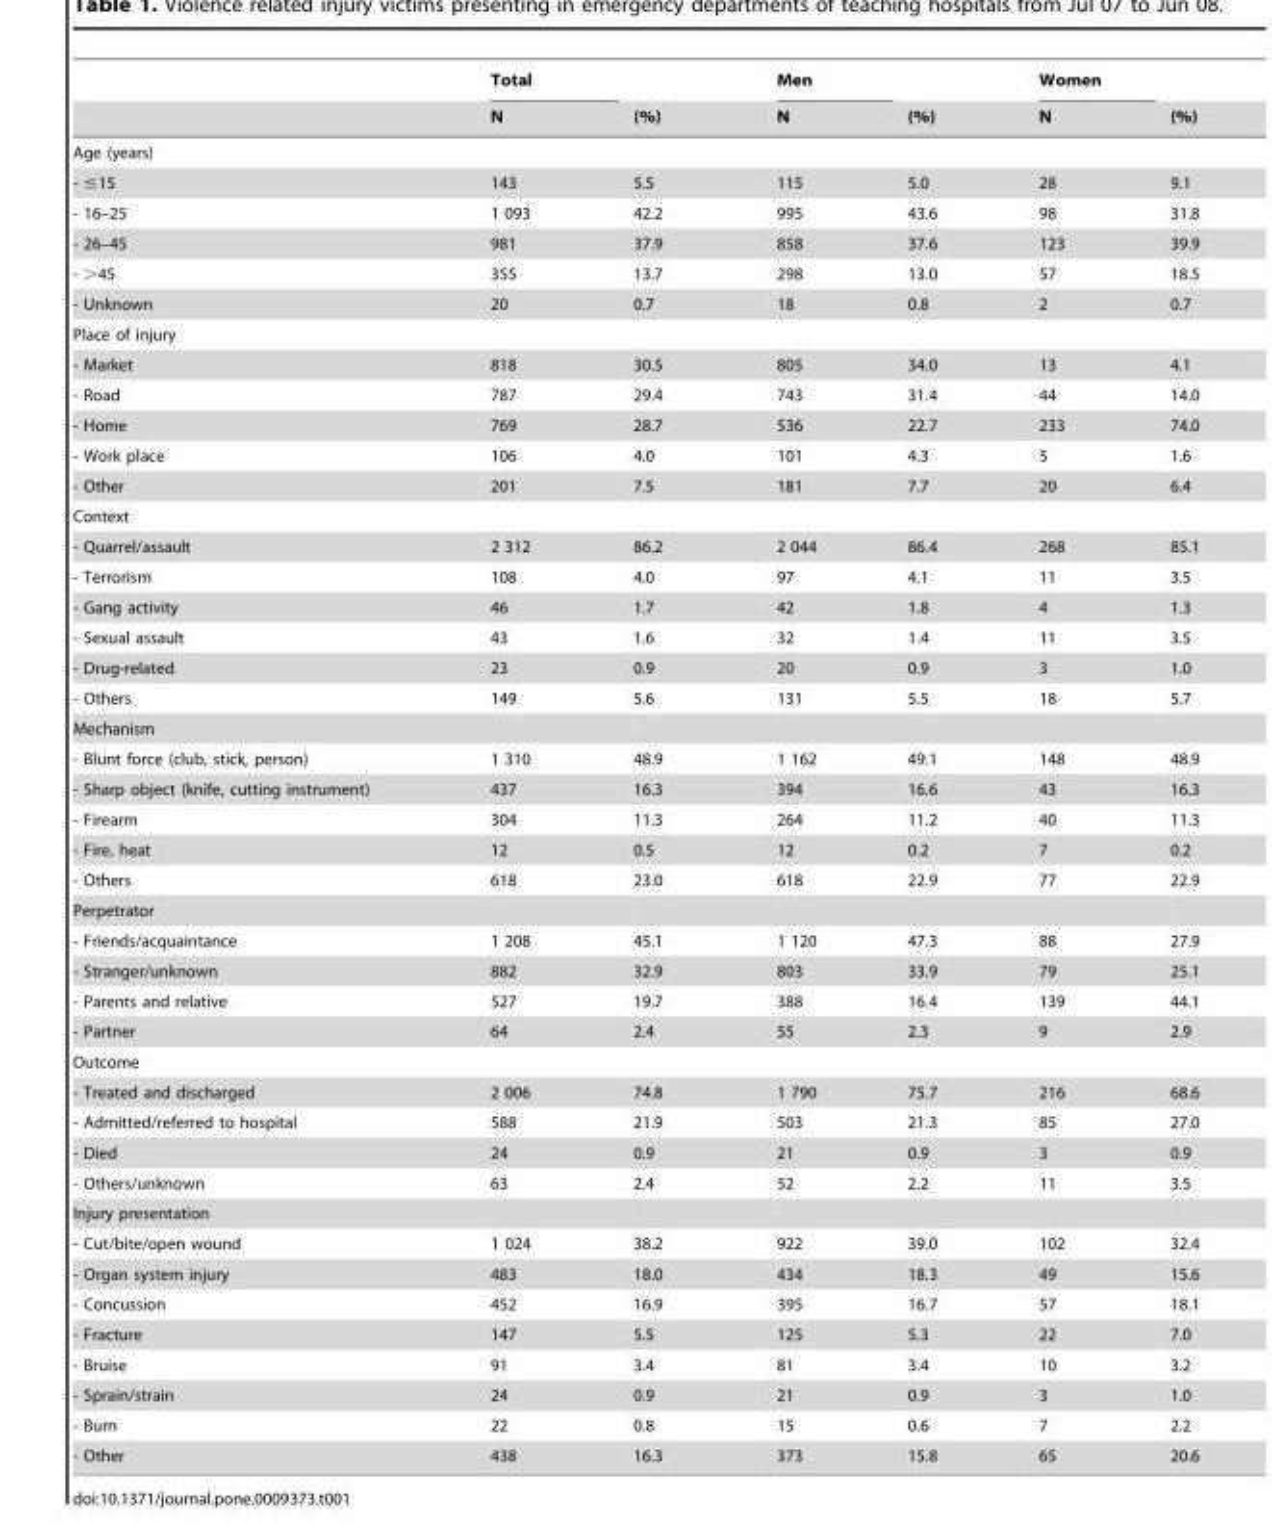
<table><thead><tr><td rowspan="2"></td><td rowspan="2">Total N</td><td rowspan="2">(%)</td><td rowspan="2">Men N</td><td rowspan="2">(%)</td><td rowspan="2">Women N</td><td rowspan="2">(%)</td></tr><tr></tr></thead><tbody><tr><td colspan="7">Age (years)</td></tr><tr><td>- ≤15</td><td>143</td><td>5.5</td><td>115</td><td>5.0</td><td>28</td><td>9.1</td></tr><tr><td>- 16–25</td><td>1 093</td><td>42.2</td><td>995</td><td>43.6</td><td>98</td><td>31.8</td></tr><tr><td>- 26–45</td><td>981</td><td>37.9</td><td>858</td><td>37.6</td><td>123</td><td>39.9</td></tr><tr><td>- &gt;45</td><td>355</td><td>13.7</td><td>298</td><td>13.0</td><td>57</td><td>18.5</td></tr><tr><td>- Unknown</td><td>20</td><td>0.7</td><td>18</td><td>0.8</td><td>2</td><td>0.7</td></tr><tr><td colspan="7">Place of injury</td></tr><tr><td>- Market</td><td>818</td><td>30.5</td><td>805</td><td>34.0</td><td>13</td><td>4.1</td></tr><tr><td>- Road</td><td>787</td><td>29.4</td><td>743</td><td>31.4</td><td>44</td><td>14.0</td></tr><tr><td>- Home</td><td>769</td><td>28.7</td><td>536</td><td>22.7</td><td>233</td><td>74.0</td></tr><tr><td>- Work place</td><td>106</td><td>4.0</td><td>101</td><td>4.3</td><td>5</td><td>1.6</td></tr><tr><td>- Other</td><td>201</td><td>7.5</td><td>181</td><td>7.7</td><td>20</td><td>6.4</td></tr><tr><td colspan="7">Context</td></tr><tr><td>- Quarrel/assault</td><td>2 312</td><td>86.2</td><td>2 044</td><td>86.4</td><td>268</td><td>85.1</td></tr><tr><td>- Terrorism</td><td>108</td><td>4.0</td><td>97</td><td>4.1</td><td>11</td><td>3.5</td></tr><tr><td>- Gang activity</td><td>46</td><td>1.7</td><td>42</td><td>1.8</td><td>4</td><td>1.3</td></tr><tr><td>- Sexual assault</td><td>43</td><td>1.6</td><td>32</td><td>1.4</td><td>11</td><td>3.5</td></tr><tr><td>- Drug-related</td><td>23</td><td>0.9</td><td>20</td><td>0.9</td><td>3</td><td>1.0</td></tr><tr><td>- Others</td><td>149</td><td>5.6</td><td>131</td><td>5.5</td><td>18</td><td>5.7</td></tr><tr><td colspan="7">Mechanism</td></tr><tr><td>- Blunt force (club, stick, person)</td><td>1 310</td><td>48.9</td><td>1 162</td><td>49.1</td><td>148</td><td>48.9</td></tr><tr><td>- Sharp object (knife, cutting instrument)</td><td>437</td><td>16.3</td><td>394</td><td>16.6</td><td>43</td><td>16.3</td></tr><tr><td>- Firearm</td><td>304</td><td>11.3</td><td>264</td><td>11.2</td><td>40</td><td>11.3</td></tr><tr><td>- Fire, heat</td><td>12</td><td>0.5</td><td>12</td><td>0.2</td><td>7</td><td>0.2</td></tr><tr><td>- Others</td><td>618</td><td>23.0</td><td>618</td><td>22.9</td><td>77</td><td>22.9</td></tr><tr><td colspan="7">Perpetrator</td></tr><tr><td>- Friends/acquaintance</td><td>1 208</td><td>45.1</td><td>1 120</td><td>47.3</td><td>88</td><td>27.9</td></tr><tr><td>- Stranger/unknown</td><td>882</td><td>32.9</td><td>803</td><td>33.9</td><td>79</td><td>25.1</td></tr><tr><td>- Parents and relative</td><td>527</td><td>19.7</td><td>388</td><td>16.4</td><td>139</td><td>44.1</td></tr><tr><td>- Partner</td><td>64</td><td>2.4</td><td>55</td><td>2.3</td><td>9</td><td>2.9</td></tr><tr><td colspan="7">Outcome</td></tr><tr><td>- Treated and discharged</td><td>2 006</td><td>74.8</td><td>1 790</td><td>75.7</td><td>216</td><td>68.6</td></tr><tr><td>- Admitted/referred to hospital</td><td>588</td><td>21.9</td><td>503</td><td>21.3</td><td>85</td><td>27.0</td></tr><tr><td>- Died</td><td>24</td><td>0.9</td><td>21</td><td>0.9</td><td>3</td><td>0.9</td></tr><tr><td>- Others/unknown</td><td>63</td><td>2.4</td><td>52</td><td>2.2</td><td>11</td><td>3.5</td></tr><tr><td colspan="7">Injury presentation</td></tr><tr><td>- Cut/bite/open wound</td><td>1 024</td><td>38.2</td><td>922</td><td>39.0</td><td>102</td><td>32.4</td></tr><tr><td>- Organ system injury</td><td>483</td><td>18.0</td><td>434</td><td>18.3</td><td>49</td><td>15.6</td></tr><tr><td>- Concussion</td><td>452</td><td>16.9</td><td>395</td><td>16.7</td><td>57</td><td>18.1</td></tr><tr><td>- Fracture</td><td>147</td><td>5.5</td><td>125</td><td>5.3</td><td>22</td><td>7.0</td></tr><tr><td>- Bruise</td><td>91</td><td>3.4</td><td>81</td><td>3.4</td><td>10</td><td>3.2</td></tr><tr><td>- Sprain/strain</td><td>24</td><td>0.9</td><td>21</td><td>0.9</td><td>3</td><td>1.0</td></tr><tr><td>- Burn</td><td>22</td><td>0.8</td><td>15</td><td>0.6</td><td>7</td><td>2.2</td></tr><tr><td>- Other</td><td>438</td><td>16.3</td><td>373</td><td>15.8</td><td>65</td><td>20.6</td></tr></tbody></table>